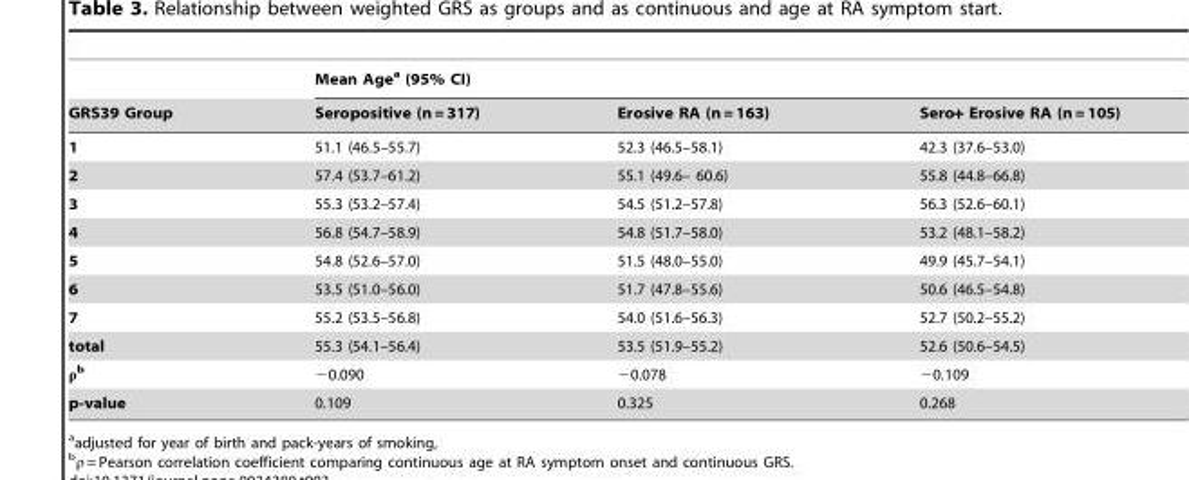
<table><thead><tr><td rowspan="2">GRS39 Group</td><td colspan="3">Mean Age<sup>a</sup> (95% CI)</td></tr><tr><td>Seropositive (n = 317)</td><td>Erosive RA (n = 163)</td><td>Sero+ Erosive RA (n = 105)</td></tr></thead><tbody><tr><td>1</td><td>51.1 (46.5–55.7)</td><td>52.3 (46.5–58.1)</td><td>42.3 (37.6–53.0)</td></tr><tr><td>2</td><td>57.4 (53.7–61.2)</td><td>55.1 (49.6– 60.6)</td><td>55.8 (44.8–66.8)</td></tr><tr><td>3</td><td>55.3 (53.2–57.4)</td><td>54.5 (51.2–57.8)</td><td>56.3 (52.6–60.1)</td></tr><tr><td>4</td><td>56.8 (54.7–58.9)</td><td>54.8 (51.7–58.0)</td><td>53.2 (48.1–58.2)</td></tr><tr><td>5</td><td>54.8 (52.6–57.0)</td><td>51.5 (48.0–55.0)</td><td>49.9 (45.7–54.1)</td></tr><tr><td>6</td><td>53.5 (51.0–56.0)</td><td>51.7 (47.8–55.6)</td><td>50.6 (46.5–54.8)</td></tr><tr><td>7</td><td>55.2 (53.5–56.8)</td><td>54.0 (51.6–56.3)</td><td>52.7 (50.2–55.2)</td></tr><tr><td>total</td><td>55.3 (54.1–56.4)</td><td>53.5 (51.9–55.2)</td><td>52.6 (50.6–54.5)</td></tr><tr><td>ρb</td><td>−0.090</td><td>−0.078</td><td>−0.109</td></tr><tr><td>p-value</td><td>0.109</td><td>0.325</td><td>0.268</td></tr></tbody></table>